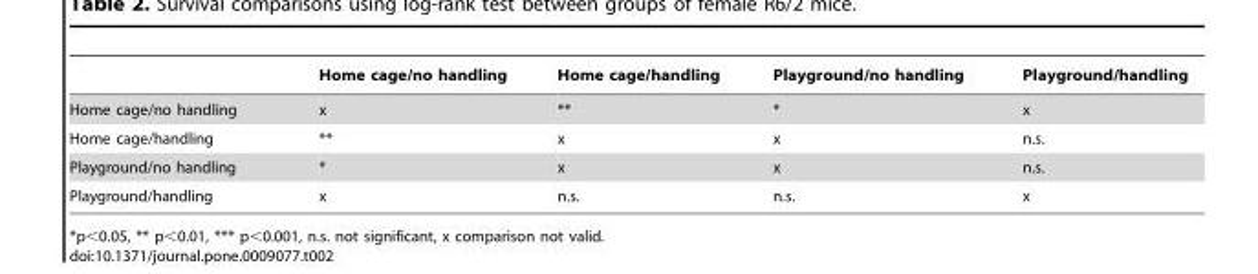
<table><thead><tr><td></td><td>Home cage/no handling</td><td>Home cage/handling</td><td>Playground/no handling</td><td>Playground/handling</td></tr></thead><tbody><tr><td>Home cage/no handling</td><td>x</td><td>**</td><td>*</td><td>x</td></tr><tr><td>Home cage/handling</td><td>**</td><td>x</td><td>x</td><td>n.s.</td></tr><tr><td>Playground/no handling</td><td>*</td><td>x</td><td>x</td><td>n.s.</td></tr><tr><td>Playground/handling</td><td>x</td><td>n.s.</td><td>n.s.</td><td>x</td></tr></tbody></table>